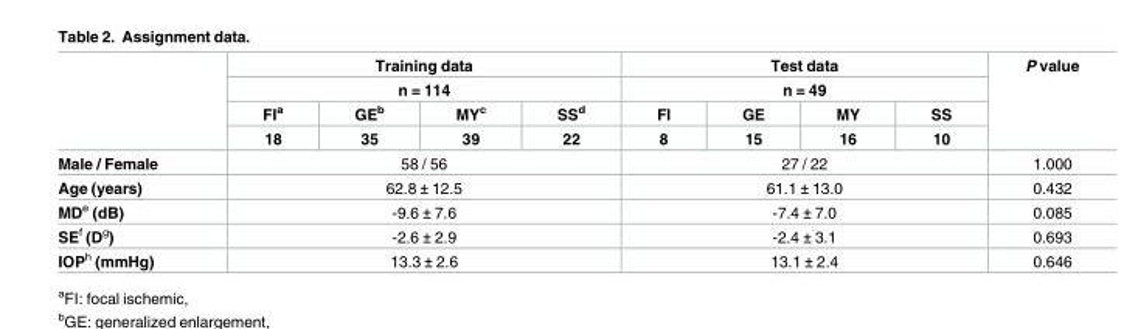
<table><thead><tr><td rowspan="4"></td><td rowspan="2" colspan="4">Training data n = 114</td><td rowspan="2" colspan="4">Test data n = 49</td><td rowspan="4">P value</td></tr><tr></tr><tr><td rowspan="2">FI<sup>a</sup> 18</td><td rowspan="2">GE<sup>b</sup> 35</td><td rowspan="2">MY<sup>c</sup> 39</td><td rowspan="2">SS<sup>d</sup> 22</td><td rowspan="2">FI 8</td><td rowspan="2">GE 15</td><td rowspan="2">MY 16</td><td rowspan="2">SS 10</td></tr><tr></tr></thead><tbody><tr><td>Male / Female</td><td colspan="4">58 / 56</td><td colspan="4">27 / 22</td><td>1.000</td></tr><tr><td>Age (years)</td><td colspan="4">62.8 ± 12.5</td><td colspan="4">61.1 ± 13.0</td><td>0.432</td></tr><tr><td>MD<sup>e</sup> (dB)</td><td colspan="4">-9.6 ± 7.6</td><td colspan="4">-7.4 ± 7.0</td><td>0.085</td></tr><tr><td>SE<sup>f</sup> (D<sup>g</sup>)</td><td colspan="4">-2.6 ± 2.9</td><td colspan="4">-2.4 ± 3.1</td><td>0.693</td></tr><tr><td>IOP<sup>h</sup> (mmHg)</td><td colspan="4">13.3 ± 2.6</td><td colspan="4">13.1 ± 2.4</td><td>0.646</td></tr></tbody></table>